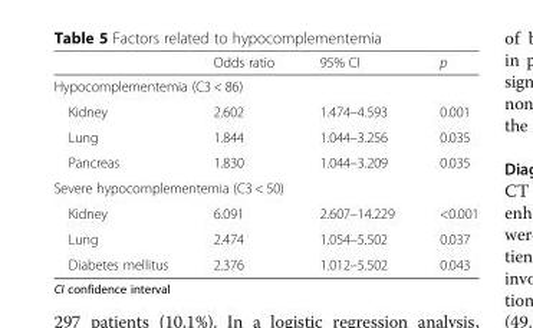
<table><thead><tr><td></td><td>Odds ratio</td><td>95% CI</td><td>p</td></tr></thead><tbody><tr><td colspan="4">Hypocomplementemia (C3 &lt; 86)</td></tr><tr><td>Kidney</td><td>2.602</td><td>1.474–4.593</td><td>0.001</td></tr><tr><td>Lung</td><td>1.844</td><td>1.044–3.256</td><td>0.035</td></tr><tr><td>Pancreas</td><td>1.830</td><td>1.044–3.209</td><td>0.035</td></tr><tr><td colspan="4">Severe hypocomplementemia (C3 &lt; 50)</td></tr><tr><td>Kidney</td><td>6.091</td><td>2.607–14.229</td><td>&lt;0.001</td></tr><tr><td>Lung</td><td>2.474</td><td>1.054–5.502</td><td>0.037</td></tr><tr><td>Diabetes mellitus</td><td>2.376</td><td>1.012–5.502</td><td>0.043</td></tr></tbody></table>